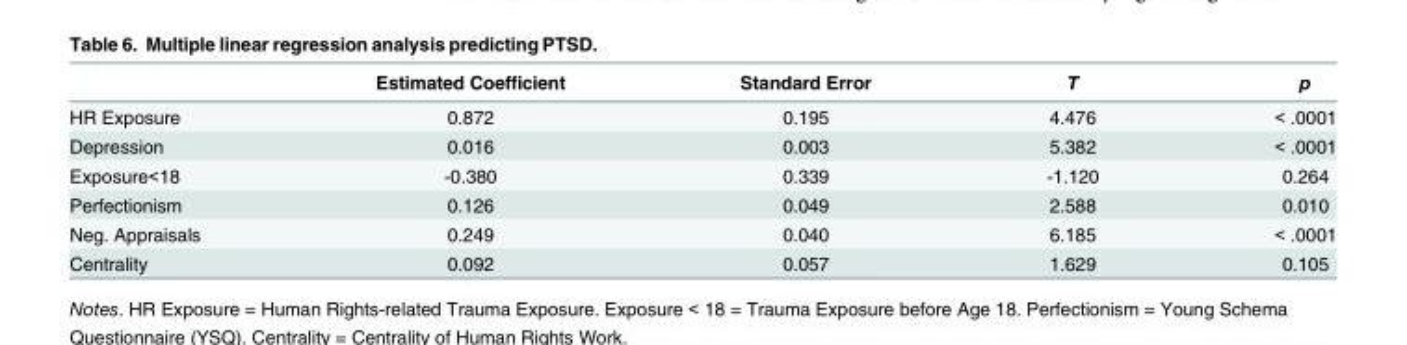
<table><thead><tr><td></td><td>Estimated Coefficient</td><td>Standard Error</td><td>T</td><td>p</td></tr></thead><tbody><tr><td>HR Exposure</td><td>0.872</td><td>0.195</td><td>4.476</td><td>&lt; .0001</td></tr><tr><td>Depression</td><td>0.016</td><td>0.003</td><td>5.382</td><td>&lt; .0001</td></tr><tr><td>Exposure&lt;18</td><td>-0.380</td><td>0.339</td><td>-1.120</td><td>0.264</td></tr><tr><td>Perfectionism</td><td>0.126</td><td>0.049</td><td>2.588</td><td>0.010</td></tr><tr><td>Neg. Appraisals</td><td>0.249</td><td>0.040</td><td>6.185</td><td>&lt; .0001</td></tr><tr><td>Centrality</td><td>0.092</td><td>0.057</td><td>1.629</td><td>0.105</td></tr></tbody></table>